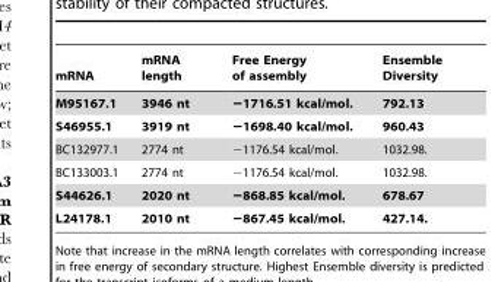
<table><thead><tr><td>mRNA</td><td>mRNA length</td><td>Free Energy of assembly</td><td>Ensemble Diversity</td></tr></thead><tbody><tr><td>M95167.1</td><td>3946 nt</td><td>−1716.51 kcal/mol.</td><td>792.13</td></tr><tr><td>S46955.1</td><td>3919 nt</td><td>−1698.40 kcal/mol.</td><td>960.43</td></tr><tr><td>BC132977.1</td><td>2774 nt</td><td>−1176.54 kcal/mol.</td><td>1032.98.</td></tr><tr><td>BC133003.1</td><td>2774 nt</td><td>−1176.54 kcal/mol.</td><td>1032.98.</td></tr><tr><td>S44626.1</td><td>2020 nt</td><td>−868.85 kcal/mol.</td><td>678.67</td></tr><tr><td>L24178.1</td><td>2010 nt</td><td>−867.45 kcal/mol.</td><td>427.14.</td></tr></tbody></table>